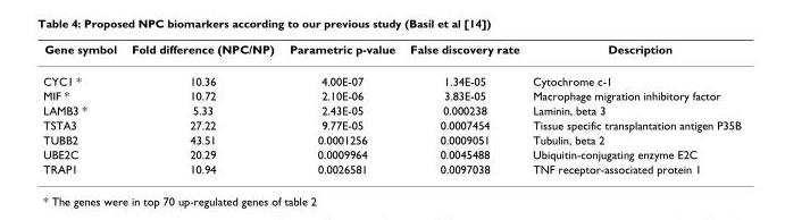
<table><thead><tr><td>Gene symbol</td><td>Fold difference (NPC/NP)</td><td>Parametric p-value</td><td>False discovery rate</td><td>Description</td></tr></thead><tbody><tr><td>CYC1 *</td><td>10.36</td><td>4.00E-07</td><td>1.34E-05</td><td>Cytochrome c-1</td></tr><tr><td>MIF *</td><td>10.72</td><td>2.10E-06</td><td>3.83E-05</td><td>Macrophage migration inhibitory factor</td></tr><tr><td>LAMB3 *</td><td>5.33</td><td>2.43E-05</td><td>0.000238</td><td>Laminin, beta 3</td></tr><tr><td>TSTA3</td><td>27.22</td><td>9.77E-05</td><td>0.0007454</td><td>Tissue specific transplantation antigen P35B</td></tr><tr><td>TUBB2</td><td>43.51</td><td>0.0001256</td><td>0.0009051</td><td>Tubulin, beta 2</td></tr><tr><td>UBE2C</td><td>20.29</td><td>0.0009964</td><td>0.0045488</td><td>Ubiquitin-conjugating enzyme E2C</td></tr><tr><td>TRAP1</td><td>10.94</td><td>0.0026581</td><td>0.0097038</td><td>TNF receptor-associated protein 1</td></tr></tbody></table>